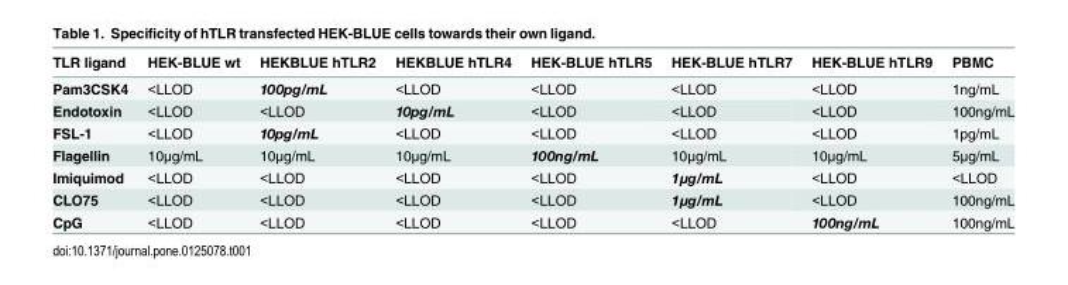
<table><thead><tr><td>TLR ligand</td><td>HEK-BLUE wt</td><td>HEKBLUE hTLR2</td><td>HEKBLUE hTLR4</td><td>HEK-BLUE hTLR5</td><td>HEK-BLUE hTLR7</td><td>HEK-BLUE hTLR9</td><td>PBMC</td></tr></thead><tbody><tr><td>Pam3CSK4</td><td>&lt;LLOD</td><td>100pg/mL</td><td>&lt;LLOD</td><td>&lt;LLOD</td><td>&lt;LLOD</td><td>&lt;LLOD</td><td>1ng/mL</td></tr><tr><td>Endotoxin</td><td>&lt;LLOD</td><td>&lt;LLOD</td><td>10pg/mL</td><td>&lt;LLOD</td><td>&lt;LLOD</td><td>&lt;LLOD</td><td>100ng/mL</td></tr><tr><td>FSL-1</td><td>&lt;LLOD</td><td>10pg/mL</td><td>&lt;LLOD</td><td>&lt;LLOD</td><td>&lt;LLOD</td><td>&lt;LLOD</td><td>1pg/mL</td></tr><tr><td>Flagellin</td><td>10μg/mL</td><td>10μg/mL</td><td>10μg/mL</td><td>100ng/mL</td><td>10μg/mL</td><td>10μg/mL</td><td>5μg/mL</td></tr><tr><td>Imiquimod</td><td>&lt;LLOD</td><td>&lt;LLOD</td><td>&lt;LLOD</td><td>&lt;LLOD</td><td>1μg/mL</td><td>&lt;LLOD</td><td>&lt;LLOD</td></tr><tr><td>CLO75</td><td>&lt;LLOD</td><td>&lt;LLOD</td><td>&lt;LLOD</td><td>&lt;LLOD</td><td>1μg/mL</td><td>&lt;LLOD</td><td>100ng/mL</td></tr><tr><td>CpG</td><td>&lt;LLOD</td><td>&lt;LLOD</td><td>&lt;LLOD</td><td>&lt;LLOD</td><td>&lt;LLOD</td><td>100ng/mL</td><td>100ng/mL</td></tr></tbody></table>